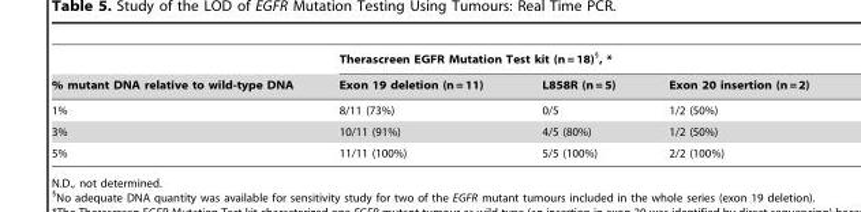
<table><thead><tr><td rowspan="2">% mutant DNA relative to wild-type DNA</td><td colspan="3">Therascreen EGFR Mutation Test kit (n = 18)§, *</td></tr><tr><td>Exon 19 deletion (n = 11)</td><td>L858R (n = 5)</td><td>Exon 20 insertion (n = 2)</td></tr></thead><tbody><tr><td>1%</td><td>8/11 (73%)</td><td>0/5</td><td>1/2 (50%)</td></tr><tr><td>3%</td><td>10/11 (91%)</td><td>4/5 (80%)</td><td>1/2 (50%)</td></tr><tr><td>5%</td><td>11/11 (100%)</td><td>5/5 (100%)</td><td>2/2 (100%)</td></tr></tbody></table>